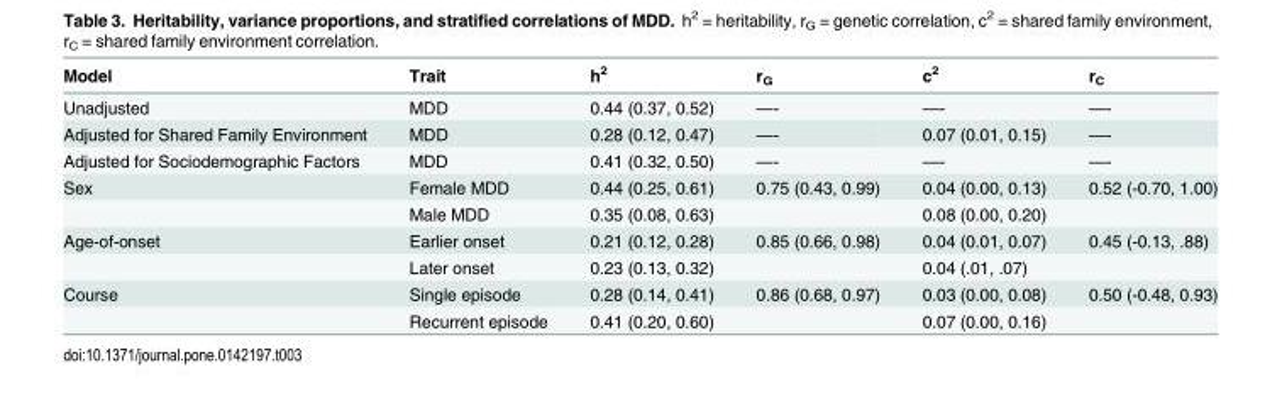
<table><thead><tr><td>Model</td><td>Trait</td><td>h<sup>2</sup></td><td>r<sub>G</sub></td><td>c<sup>2</sup></td><td>r<sub>C</sub></td></tr></thead><tbody><tr><td>Unadjusted</td><td>MDD</td><td>0.44 (0.37, 0.52)</td><td>—-</td><td>—-</td><td>—-</td></tr><tr><td>Adjusted for Shared Family Environment</td><td>MDD</td><td>0.28 (0.12, 0.47)</td><td>—-</td><td>0.07 (0.01, 0.15)</td><td>—-</td></tr><tr><td>Adjusted for Sociodemographic Factors</td><td>MDD</td><td>0.41 (0.32, 0.50)</td><td>—-</td><td>—-</td><td>—-</td></tr><tr><td rowspan="2">Sex</td><td>Female MDD</td><td>0.44 (0.25, 0.61)</td><td>0.75 (0.43, 0.99)</td><td>0.04 (0.00, 0.13)</td><td>0.52 (-0.70, 1.00)</td></tr><tr><td>Male MDD</td><td>0.35 (0.08, 0.63)</td><td></td><td>0.08 (0.00, 0.20)</td><td></td></tr><tr><td rowspan="2">Age-of-onset</td><td>Earlier onset</td><td>0.21 (0.12, 0.28)</td><td>0.85 (0.66, 0.98)</td><td>0.04 (0.01, 0.07)</td><td>0.45 (-0.13, .88)</td></tr><tr><td>Later onset</td><td>0.23 (0.13, 0.32)</td><td></td><td>0.04 (.01, .07)</td><td></td></tr><tr><td rowspan="2">Course</td><td>Single episode</td><td>0.28 (0.14, 0.41)</td><td>0.86 (0.68, 0.97)</td><td>0.03 (0.00, 0.08)</td><td>0.50 (-0.48, 0.93)</td></tr><tr><td>Recurrent episode</td><td>0.41 (0.20, 0.60)</td><td></td><td>0.07 (0.00, 0.16)</td><td></td></tr></tbody></table>